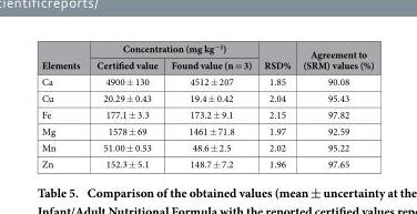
<table><thead><tr><td rowspan="2">Elements</td><td colspan="2">Concentration (mg kg<sup>−1</sup>)</td><td rowspan="2">RSD%</td><td rowspan="2">Agreement to (SRM) values (%)</td></tr><tr><td>Certified value</td><td>Found value (n = 3)</td></tr></thead><tbody><tr><td>Ca</td><td>4900 ± 130</td><td>4512 ± 207</td><td>1.85</td><td>90.08</td></tr><tr><td>Cu</td><td>20.29 ± 0.43</td><td>19.4 ± 0.42</td><td>2.04</td><td>95.43</td></tr><tr><td>Fe</td><td>177.1 ± 3.3</td><td>173.2 ± 9.1</td><td>2.15</td><td>97.82</td></tr><tr><td>Mg</td><td>1578 ± 69</td><td>1461 ± 71.8</td><td>1.97</td><td>92.59</td></tr><tr><td>Mn</td><td>51.00 ± 0.53</td><td>48.6 ± 2.5</td><td>2.02</td><td>95.22</td></tr><tr><td>Zn</td><td>152.3 ± 5.1</td><td>148.7 ± 7.2</td><td>1.96</td><td>97.65</td></tr></tbody></table>